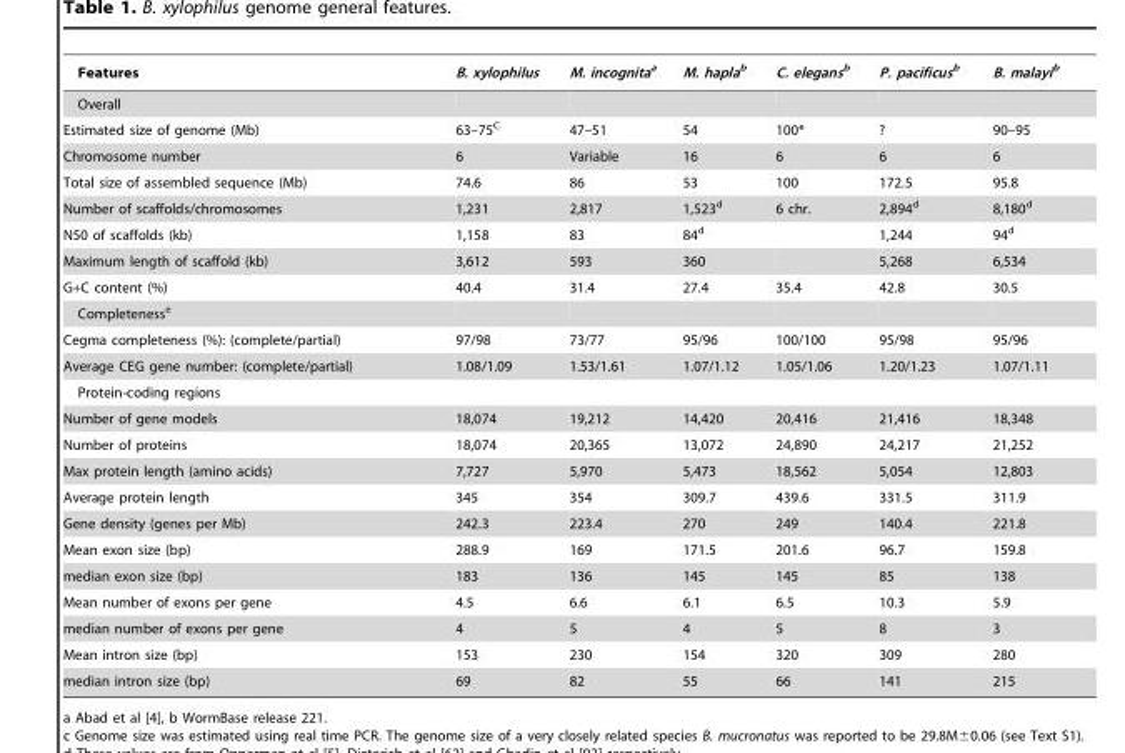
<table><thead><tr><td>Features</td><td>B. xylophilus</td><td>M. incognita<sup>a</sup></td><td>M. hapla<sup>b</sup></td><td>C. elegans<sup>b</sup></td><td>P. pacificus<sup>b</sup></td><td>B. malayi<sup>b</sup></td></tr></thead><tbody><tr><td colspan="7">Overall</td></tr><tr><td>Estimated size of genome (Mb)</td><td>63–75<sup>C</sup></td><td>47–51</td><td>54</td><td>100*</td><td>?</td><td>90–95</td></tr><tr><td>Chromosome number</td><td>6</td><td>Variable</td><td>16</td><td>6</td><td>6</td><td>6</td></tr><tr><td>Total size of assembled sequence (Mb)</td><td>74.6</td><td>86</td><td>53</td><td>100</td><td>172.5</td><td>95.8</td></tr><tr><td>Number of scaffolds/chromosomes</td><td>1,231</td><td>2,817</td><td>1,523<sup>d</sup></td><td>6 chr.</td><td>2,894<sup>d</sup></td><td>8,180<sup>d</sup></td></tr><tr><td>N50 of scaffolds (kb)</td><td>1,158</td><td>83</td><td>84<sup>d</sup></td><td></td><td>1,244</td><td>94<sup>d</sup></td></tr><tr><td>Maximum length of scaffold (kb)</td><td>3,612</td><td>593</td><td>360</td><td></td><td>5,268</td><td>6,534</td></tr><tr><td>G+C content (%)</td><td>40.4</td><td>31.4</td><td>27.4</td><td>35.4</td><td>42.8</td><td>30.5</td></tr><tr><td colspan="7">Completeness<sup>e</sup></td></tr><tr><td>Cegma completeness (%): (complete/partial)</td><td>97/98</td><td>73/77</td><td>95/96</td><td>100/100</td><td>95/98</td><td>95/96</td></tr><tr><td>Average CEG gene number: (complete/partial)</td><td>1.08/1.09</td><td>1.53/1.61</td><td>1.07/1.12</td><td>1.05/1.06</td><td>1.20/1.23</td><td>1.07/1.11</td></tr><tr><td colspan="7">Protein-coding regions</td></tr><tr><td>Number of gene models</td><td>18,074</td><td>19,212</td><td>14,420</td><td>20,416</td><td>21,416</td><td>18,348</td></tr><tr><td>Number of proteins</td><td>18,074</td><td>20,365</td><td>13,072</td><td>24,890</td><td>24,217</td><td>21,252</td></tr><tr><td>Max protein length (amino acids)</td><td>7,727</td><td>5,970</td><td>5,473</td><td>18,562</td><td>5,054</td><td>12,803</td></tr><tr><td>Average protein length</td><td>345</td><td>354</td><td>309.7</td><td>439.6</td><td>331.5</td><td>311.9</td></tr><tr><td>Gene density (genes per Mb)</td><td>242.3</td><td>223.4</td><td>270</td><td>249</td><td>140.4</td><td>221.8</td></tr><tr><td>Mean exon size (bp)</td><td>288.9</td><td>169</td><td>171.5</td><td>201.6</td><td>96.7</td><td>159.8</td></tr><tr><td>median exon size (bp)</td><td>183</td><td>136</td><td>145</td><td>145</td><td>85</td><td>138</td></tr><tr><td>Mean number of exons per gene</td><td>4.5</td><td>6.6</td><td>6.1</td><td>6.5</td><td>10.3</td><td>5.9</td></tr><tr><td>median number of exons per gene</td><td>4</td><td>5</td><td>4</td><td>5</td><td>8</td><td>3</td></tr><tr><td>Mean intron size (bp)</td><td>153</td><td>230</td><td>154</td><td>320</td><td>309</td><td>280</td></tr><tr><td>median intron size (bp)</td><td>69</td><td>82</td><td>55</td><td>66</td><td>141</td><td>215</td></tr></tbody></table>